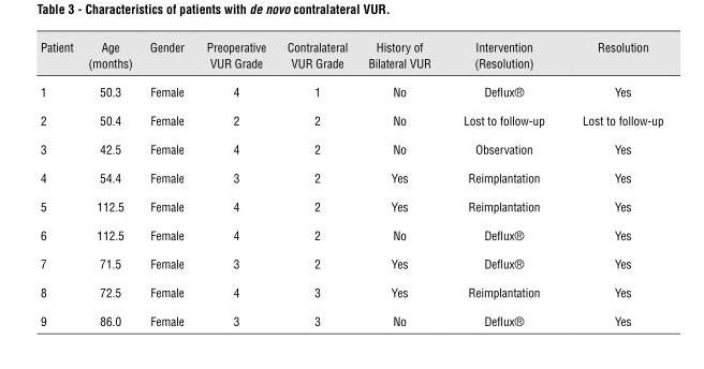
<table><thead><tr><td>Patient</td><td>Age (months)</td><td>Gender</td><td>Preoperative VUR Grade</td><td>Contralateral VUR Grade</td><td>History of Bilateral VUR</td><td>Intervention (Resolution)</td><td>Resolution</td></tr></thead><tbody><tr><td>1</td><td>50.3</td><td>Female</td><td>4</td><td>1</td><td>No</td><td>Deflux<sup>®</sup></td><td>Yes</td></tr><tr><td>2</td><td>50.4</td><td>Female</td><td>2</td><td>2</td><td>No</td><td>Lost to follow-up</td><td>Lost to follow-up</td></tr><tr><td>3</td><td>42.5</td><td>Female</td><td>4</td><td>2</td><td>No</td><td>Observation</td><td>Yes</td></tr><tr><td>4</td><td>54.4</td><td>Female</td><td>3</td><td>2</td><td>Yes</td><td>Reimplantation</td><td>Yes</td></tr><tr><td>5</td><td>112.5</td><td>Female</td><td>4</td><td>2</td><td>Yes</td><td>Reimplantation</td><td>Yes</td></tr><tr><td>6</td><td>112.5</td><td>Female</td><td>4</td><td>2</td><td>No</td><td>Deflux<sup>®</sup></td><td>Yes</td></tr><tr><td>7</td><td>71.5</td><td>Female</td><td>3</td><td>2</td><td>Yes</td><td>Deflux<sup>®</sup></td><td>Yes</td></tr><tr><td>8</td><td>72.5</td><td>Female</td><td>4</td><td>3</td><td>Yes</td><td>Reimplantation</td><td>Yes</td></tr><tr><td>9</td><td>86.0</td><td>Female</td><td>3</td><td>3</td><td>No</td><td>Deflux<sup>®</sup></td><td>Yes</td></tr></tbody></table>